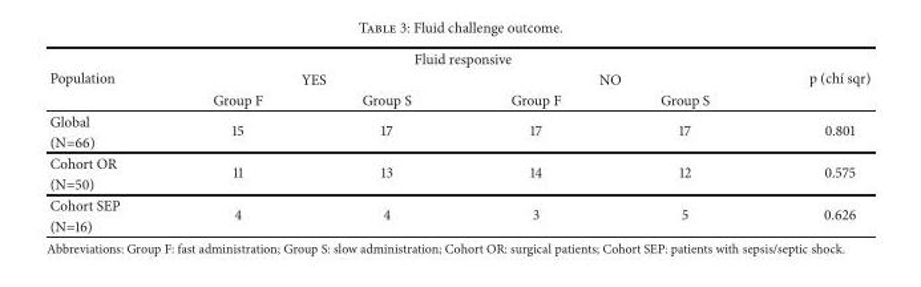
<table><thead><tr><td rowspan="3">Population</td><td colspan="4">Fluid responsive</td><td rowspan="3">p (ch´ı sqr)</td></tr><tr><td colspan="2">YES</td><td colspan="2">NO</td></tr><tr><td>Group F</td><td>Group S</td><td>Group F</td><td>Group S</td></tr></thead><tbody><tr><td>Global</td><td rowspan="2">15</td><td rowspan="2">17</td><td rowspan="2">17</td><td rowspan="2">17</td><td rowspan="2">0.801</td></tr><tr><td>(N=66)</td></tr><tr><td>Cohort OR</td><td rowspan="2">11</td><td rowspan="2">13</td><td rowspan="2">14</td><td rowspan="2">12</td><td rowspan="2">0.575</td></tr><tr><td>(N=50)</td></tr><tr><td>Cohort SEP</td><td rowspan="2">4</td><td rowspan="2">4</td><td rowspan="2">3</td><td rowspan="2">5</td><td rowspan="2">0.626</td></tr><tr><td>(N=16)</td></tr></tbody></table>